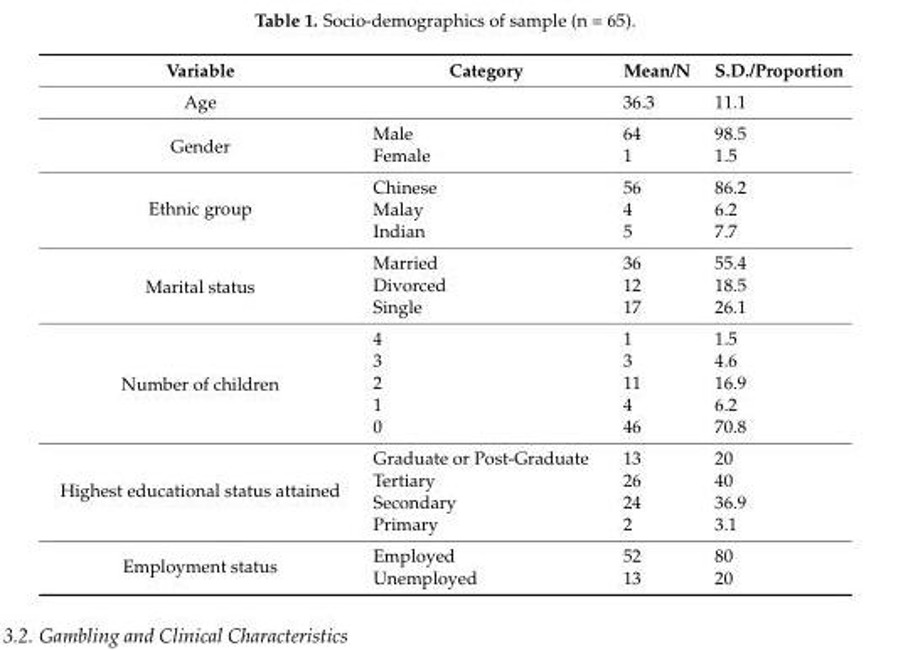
<table><thead><tr><td>Variable</td><td>Category</td><td>Mean/N</td><td>S.D./Proportion</td></tr></thead><tbody><tr><td>Age</td><td></td><td>36.3</td><td>11.1</td></tr><tr><td rowspan="2">Gender</td><td>Male</td><td>64</td><td>98.5</td></tr><tr><td>Female</td><td>1</td><td>1.5</td></tr><tr><td rowspan="3">Ethnic group</td><td>Chinese</td><td>56</td><td>86.2</td></tr><tr><td>Malay</td><td>4</td><td>6.2</td></tr><tr><td>Indian</td><td>5</td><td>7.7</td></tr><tr><td rowspan="3">Marital status</td><td>Married</td><td>36</td><td>55.4</td></tr><tr><td>Divorced</td><td>12</td><td>18.5</td></tr><tr><td>Single</td><td>17</td><td>26.1</td></tr><tr><td rowspan="5">Number of children</td><td>4</td><td>1</td><td>1.5</td></tr><tr><td>3</td><td>3</td><td>4.6</td></tr><tr><td>2</td><td>11</td><td>16.9</td></tr><tr><td>1</td><td>4</td><td>6.2</td></tr><tr><td>0</td><td>46</td><td>70.8</td></tr><tr><td rowspan="4">Highest educational status attained</td><td>Graduate or Post-Graduate</td><td>13</td><td>20</td></tr><tr><td>Tertiary</td><td>26</td><td>40</td></tr><tr><td>Secondary</td><td>24</td><td>36.9</td></tr><tr><td>Primary</td><td>2</td><td>3.1</td></tr><tr><td rowspan="2">Employment status</td><td>Employed</td><td>52</td><td>80</td></tr><tr><td>Unemployed</td><td>13</td><td>20</td></tr></tbody></table>